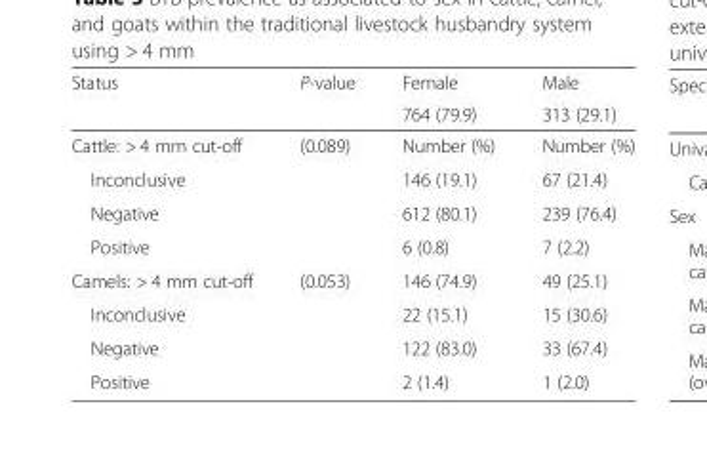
<table><thead><tr><td rowspan="2">Status</td><td rowspan="2">P-value</td><td rowspan="2">Female 764 (79.9)</td><td rowspan="2">Male 313 (29.1)</td></tr><tr></tr></thead><tbody><tr><td>Cattle: &gt; 4 mm cut-off</td><td>(0.089)</td><td>Number (%)</td><td>Number (%)</td></tr><tr><td>Inconclusive</td><td></td><td>146 (19.1)</td><td>67 (21.4)</td></tr><tr><td>Negative</td><td></td><td>612 (80.1)</td><td>239 (76.4)</td></tr><tr><td>Positive</td><td></td><td>6 (0.8)</td><td>7 (2.2)</td></tr><tr><td>Camels: &gt; 4 mm cut-off</td><td>(0.053)</td><td>146 (74.9)</td><td>49 (25.1)</td></tr><tr><td>Inconclusive</td><td></td><td>22 (15.1)</td><td>15 (30.6)</td></tr><tr><td>Negative</td><td></td><td>122 (83.0)</td><td>33 (67.4)</td></tr><tr><td>Positive</td><td></td><td>2 (1.4)</td><td>1 (2.0)</td></tr></tbody></table>